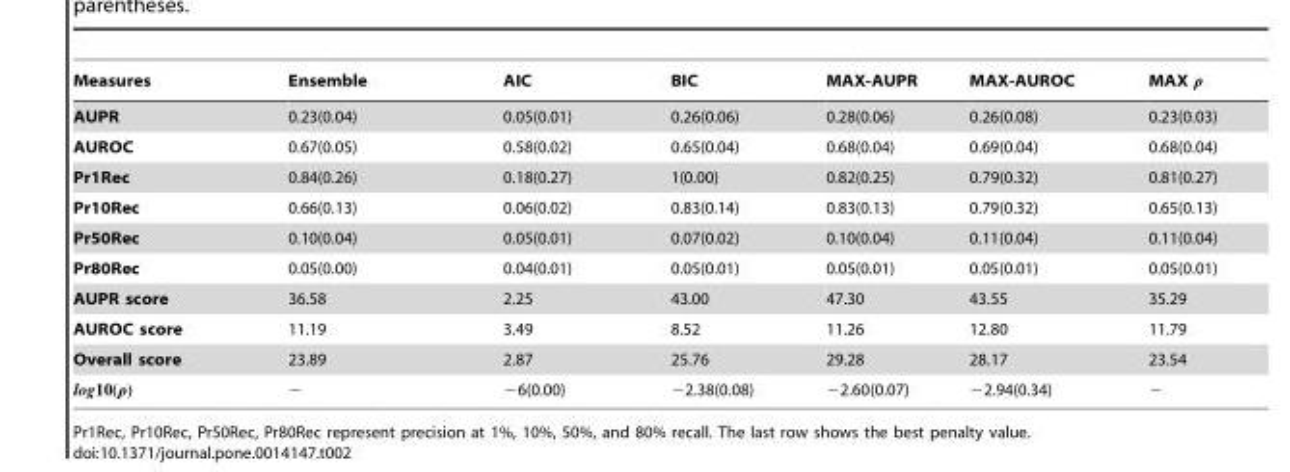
<table><thead><tr><td>Measures</td><td>Ensemble</td><td>AIC</td><td>BIC</td><td>MAX-AUPR</td><td>MAX-AUROC</td><td>MAX r</td></tr></thead><tbody><tr><td>AUPR</td><td>0.23(0.04)</td><td>0.05(0.01)</td><td>0.26(0.06)</td><td>0.28(0.06)</td><td>0.26(0.08)</td><td>0.23(0.03)</td></tr><tr><td>AUROC</td><td>0.67(0.05)</td><td>0.58(0.02)</td><td>0.65(0.04)</td><td>0.68(0.04)</td><td>0.69(0.04)</td><td>0.68(0.04)</td></tr><tr><td>Pr1Rec</td><td>0.84(0.26)</td><td>0.18(0.27)</td><td>1(0.00)</td><td>0.82(0.25)</td><td>0.79(0.32)</td><td>0.81(0.27)</td></tr><tr><td>Pr10Rec</td><td>0.66(0.13)</td><td>0.06(0.02)</td><td>0.83(0.14)</td><td>0.83(0.13)</td><td>0.79(0.32)</td><td>0.65(0.13)</td></tr><tr><td>Pr50Rec</td><td>0.10(0.04)</td><td>0.05(0.01)</td><td>0.07(0.02)</td><td>0.10(0.04)</td><td>0.11(0.04)</td><td>0.11(0.04)</td></tr><tr><td>Pr80Rec</td><td>0.05(0.00)</td><td>0.04(0.01)</td><td>0.05(0.01)</td><td>0.05(0.01)</td><td>0.05(0.01)</td><td>0.05(0.01)</td></tr><tr><td>AUPR score</td><td>36.58</td><td>2.25</td><td>43.00</td><td>47.30</td><td>43.55</td><td>35.29</td></tr><tr><td>AUROC score</td><td>11.19</td><td>3.49</td><td>8.52</td><td>11.26</td><td>12.80</td><td>11.79</td></tr><tr><td rowspan="2">Overall score log10(r)</td><td>23.89</td><td>2.87</td><td>25.76</td><td>29.28</td><td>28.17</td><td>23.54</td></tr><tr><td>−</td><td>−6(0.00)</td><td>−2.38(0.08)</td><td>−2.60(0.07)</td><td>−2.94(0.34)</td><td>−</td></tr></tbody></table>